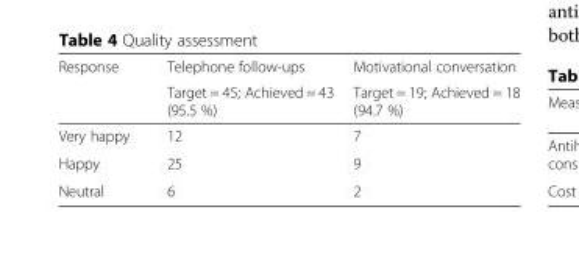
<table><thead><tr><td rowspan="2">Response</td><td rowspan="2">Telephone follow-ups Target = 45; Achieved = 43 (95.5 %)</td><td rowspan="2">Motivational conversation Target = 19; Achieved = 18 (94.7 %)</td></tr><tr></tr></thead><tbody><tr><td>Very happy</td><td>12</td><td>7</td></tr><tr><td>Happy</td><td>25</td><td>9</td></tr><tr><td>Neutral</td><td>6</td><td>2</td></tr></tbody></table>